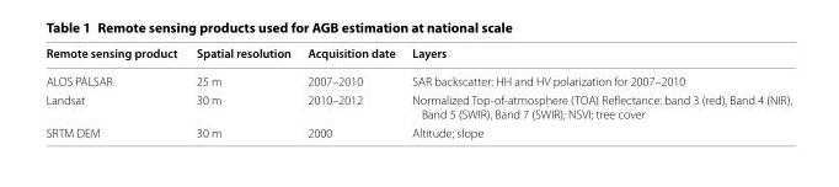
<table><thead><tr><td>Remote sensing product</td><td>Spatial resolution</td><td>Acquisition date</td><td>Layers</td></tr></thead><tbody><tr><td>ALOS PALSAR</td><td>25 m</td><td>2007–2010</td><td>SAR backscatter: HH and HV polarization for 2007–2010</td></tr><tr><td>Landsat</td><td>30 m</td><td>2010–2012</td><td>Normalized Top-of-atmosphere (TOA) Reflectance: band 3 (red), Band 4 (NIR), Band 5 (SWIR), Band 7 (SWIR); NSVI; tree cover</td></tr><tr><td>SRTM DEM</td><td>30 m</td><td>2000</td><td>Altitude; slope</td></tr></tbody></table>